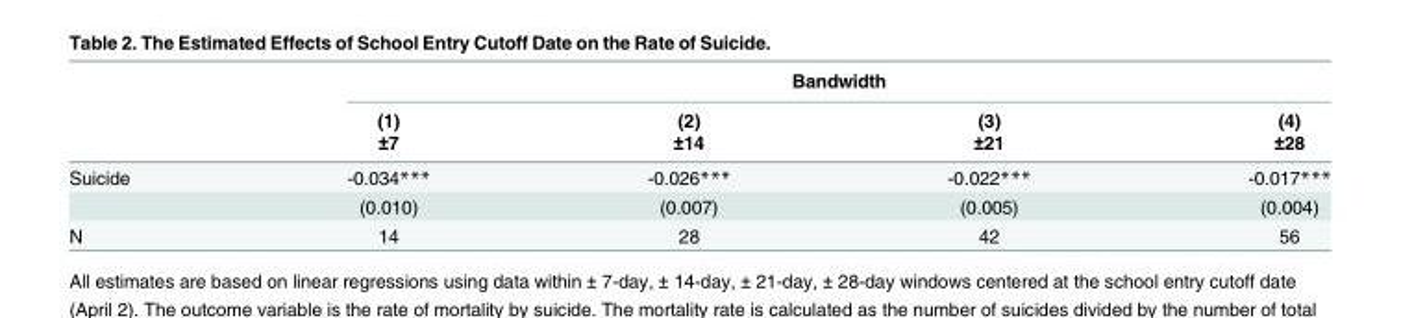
<table><thead><tr><td rowspan="3"></td><td colspan="4">Bandwidth</td></tr><tr><td rowspan="2">(1) ±7</td><td rowspan="2">(2) ±14</td><td rowspan="2">(3) ±21</td><td rowspan="2">(4) ±28</td></tr><tr></tr></thead><tbody><tr><td rowspan="2">Suicide</td><td>-0.034***</td><td>-0.026***</td><td>-0.022***</td><td>-0.017***</td></tr><tr><td>(0.010)</td><td>(0.007)</td><td>(0.005)</td><td>(0.004)</td></tr><tr><td>N</td><td>14</td><td>28</td><td>42</td><td>56</td></tr></tbody></table>